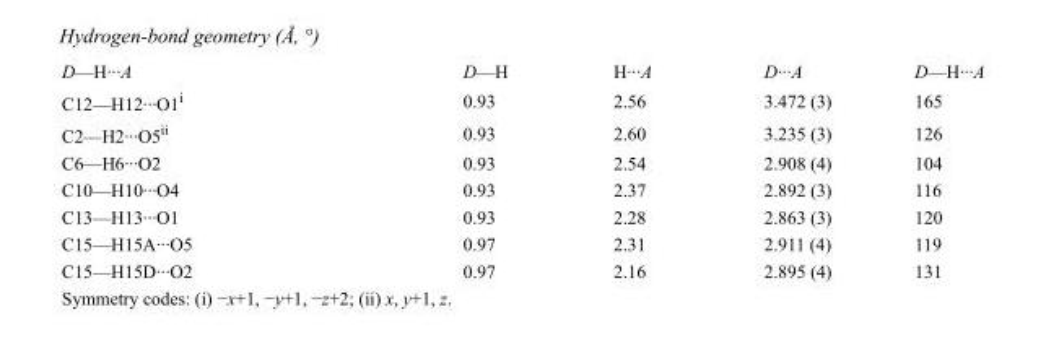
<table><tbody><tr><td>D—H···A</td><td>D—H</td><td>H···A</td><td>D···A</td><td>D—H···A</td></tr><tr><td>C12—H12···O1<sup>i</sup></td><td>0.93</td><td>2.56</td><td>3.472 (3)</td><td>165</td></tr><tr><td>C2—H2···O5<sup>ii</sup></td><td>0.93</td><td>2.60</td><td>3.235 (3)</td><td>126</td></tr><tr><td>C6—H6···O2</td><td>0.93</td><td>2.54</td><td>2.908 (4)</td><td>104</td></tr><tr><td>C10—H10···O4</td><td>0.93</td><td>2.37</td><td>2.892 (3)</td><td>116</td></tr><tr><td>C13—H13···O1</td><td>0.93</td><td>2.28</td><td>2.863 (3)</td><td>120</td></tr><tr><td>C15—H15A···O5</td><td>0.97</td><td>2.31</td><td>2.911 (4)</td><td>119</td></tr><tr><td>C15—H15D···O2</td><td>0.97</td><td>2.16</td><td>2.895 (4)</td><td>131</td></tr></tbody></table>